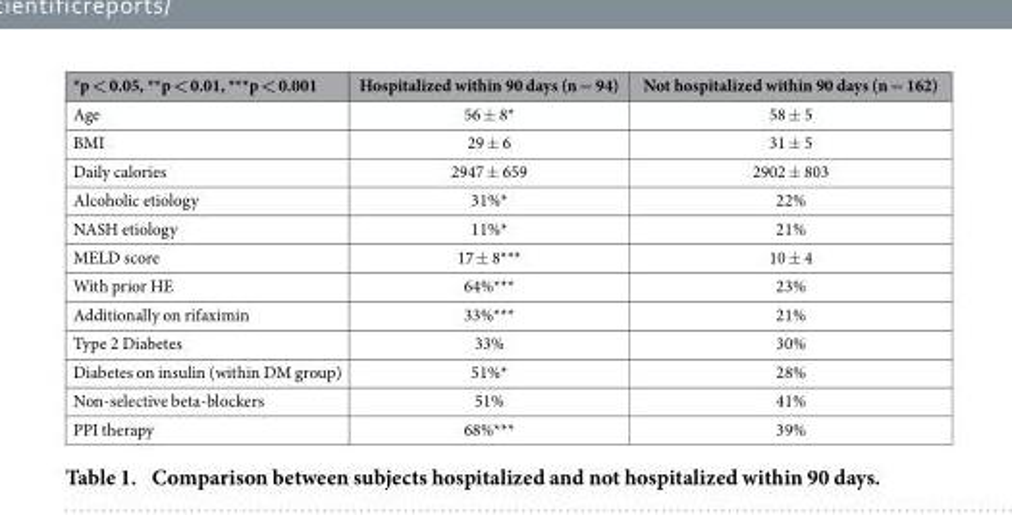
<table><thead><tr><td>*p &lt; 0.05, **p &lt; 0.01, ***p &lt; 0.001</td><td>Hospitalized within 90 days (n = 94)</td><td>Not hospitalized within 90 days (n = 162)</td></tr></thead><tbody><tr><td>Age</td><td>56 ± 8*</td><td>58 ± 5</td></tr><tr><td>BMI</td><td>29 ± 6</td><td>31 ± 5</td></tr><tr><td>Daily calories</td><td>2947 ± 659</td><td>2902 ± 803</td></tr><tr><td>Alcoholic etiology</td><td>31%*</td><td>22%</td></tr><tr><td>NASH etiology</td><td>11%*</td><td>21%</td></tr><tr><td>MELD score</td><td>17 ± 8***</td><td>10 ± 4</td></tr><tr><td>With prior HE</td><td>64%***</td><td>23%</td></tr><tr><td>Additionally on rifaximin</td><td>33%***</td><td>21%</td></tr><tr><td>Type 2 Diabetes</td><td>33%</td><td>30%</td></tr><tr><td>Diabetes on insulin (within DM group)</td><td>51%*</td><td>28%</td></tr><tr><td>Non-selective beta-blockers</td><td>51%</td><td>41%</td></tr><tr><td>PPI therapy</td><td>68%***</td><td>39%</td></tr></tbody></table>